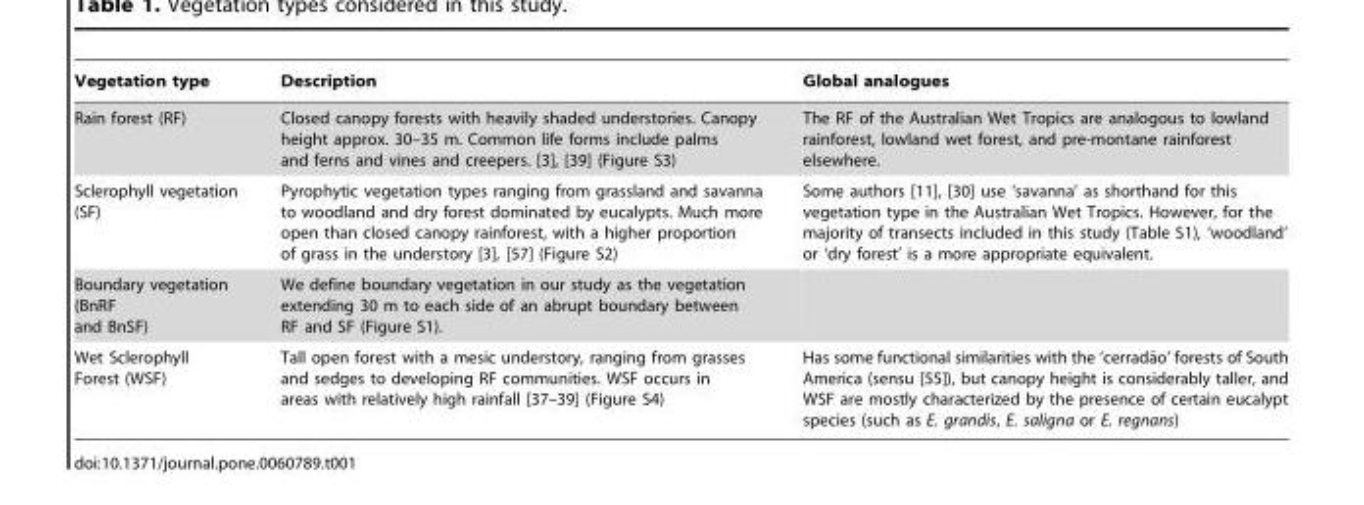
<table><thead><tr><td>Vegetation type</td><td>Description</td><td>Global analogues</td></tr></thead><tbody><tr><td>Rain forest (RF)</td><td>Closed canopy forests with heavily shaded understories. Canopy height approx. 30–35 m. Common life forms include palms and ferns and vines and creepers. [3], [39] (Figure S3)</td><td>The RF of the Australian Wet Tropics are analogous to lowland rainforest, lowland wet forest, and pre-montane rainforest elsewhere.</td></tr><tr><td>Sclerophyll vegetation (SF)</td><td>Pyrophytic vegetation types ranging from grassland and savanna to woodland and dry forest dominated by eucalypts. Much more open than closed canopy rainforest, with a higher proportion of grass in the understory [3], [57] (Figure S2)</td><td>Some authors [11], [30] use ‘savanna’ as shorthand for this vegetation type in the Australian Wet Tropics. However, for the majority of transects included in this study (Table S1), ‘woodland’ or ‘dry forest’ is a more appropriate equivalent.</td></tr><tr><td>Boundary vegetation (BnRF and BnSF)</td><td>We define boundary vegetation in our study as the vegetation extending 30 m to each side of an abrupt boundary between RF and SF (Figure S1).</td><td></td></tr><tr><td>Wet Sclerophyll Forest (WSF)</td><td>Tall open forest with a mesic understory, ranging from grasses and sedges to developing RF communities. WSF occurs in areas with relatively high rainfall [37–39] (Figure S4)</td><td>Has some functional similarities with the ‘cerrada˜o’ forests of South America (sensu [55]), but canopy height is considerably taller, and WSF are mostly characterized by the presence of certain eucalypt species (such as E. grandis, E. saligna or E. regnans)</td></tr></tbody></table>